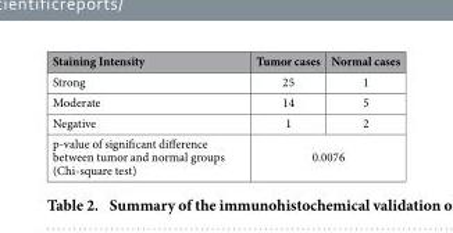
<table><thead><tr><td>Staining Intensity</td><td>Tumor cases</td><td>Normal cases</td></tr></thead><tbody><tr><td>Strong</td><td>25</td><td>1</td></tr><tr><td>Moderate</td><td>14</td><td>5</td></tr><tr><td>Negative</td><td>1</td><td>2</td></tr><tr><td>p-value of significant difference between tumor and normal groups (Chi-square test)</td><td colspan="2">0.0076</td></tr></tbody></table>